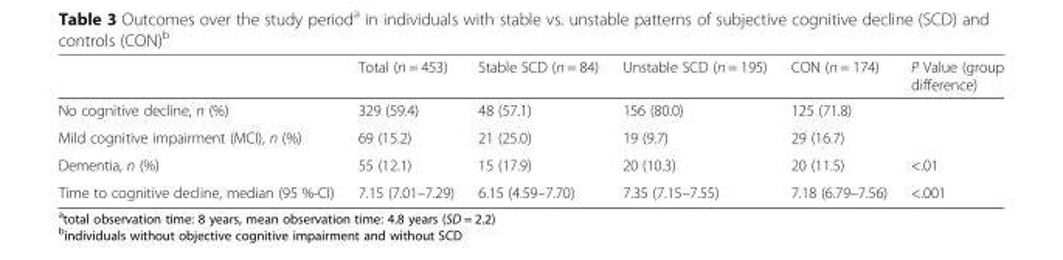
<table><thead><tr><td></td><td>Total (n = 453)</td><td>Stable SCD (n = 84)</td><td>Unstable SCD (n = 195)</td><td>CON (n = 174)</td><td>P Value (group difference)</td></tr></thead><tbody><tr><td>No cognitive decline, n (%)</td><td>329 (59.4)</td><td>48 (57.1)</td><td>156 (80.0)</td><td>125 (71.8)</td><td rowspan="2"></td></tr><tr><td>Mild cognitive impairment (MCI), n (%)</td><td>69 (15.2)</td><td>21 (25.0)</td><td>19 (9.7)</td><td>29 (16.7)</td></tr><tr><td>Dementia, n (%)</td><td>55 (12.1)</td><td>15 (17.9)</td><td>20 (10.3)</td><td>20 (11.5)</td><td>&lt;.01</td></tr><tr><td>Time to cognitive decline, median (95 %-CI)</td><td>7.15 (7.01–7.29)</td><td>6.15 (4.59–7.70)</td><td>7.35 (7.15–7.55)</td><td>7.18 (6.79–7.56)</td><td>&lt;.001</td></tr></tbody></table>